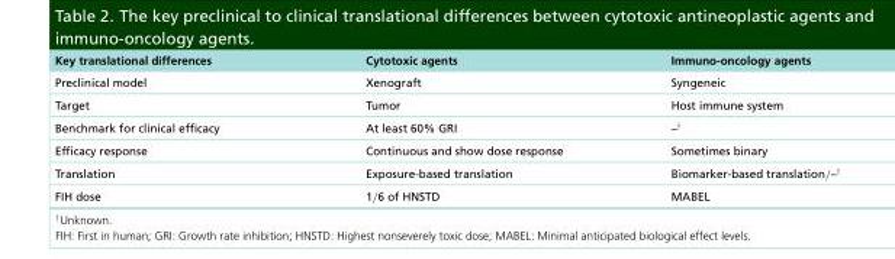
<table><thead><tr><td>Key translational differences</td><td>Cytotoxic agents</td><td>Immuno-oncology agents</td></tr></thead><tbody><tr><td>Preclinical model</td><td>Xenograft</td><td>Syngeneic</td></tr><tr><td>Target</td><td>Tumor</td><td>Host immune system</td></tr><tr><td>Benchmark for clinical efficacy</td><td>At least 60% GRI</td><td>–<sup>†</sup></td></tr><tr><td>Efficacy response</td><td>Continuous and show dose response</td><td>Sometimes binary</td></tr><tr><td>Translation</td><td>Exposure-based translation</td><td>Biomarker-based translation/–<sup>†</sup></td></tr><tr><td>FIH dose</td><td>1/6 of HNSTD</td><td>MABEL</td></tr></tbody></table>